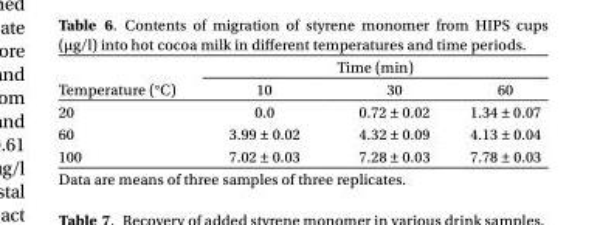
<table><thead><tr><td rowspan="2">Temperature (°C)</td><td colspan="3">Time (min)</td></tr><tr><td>10</td><td>30</td><td>60</td></tr></thead><tbody><tr><td>20</td><td>0.0</td><td>0.72 ± 0.02</td><td>1.34 ± 0.07</td></tr><tr><td>60</td><td>3.99 ± 0.02</td><td>4.32 ± 0.09</td><td>4.13 ± 0.04</td></tr><tr><td>100</td><td>7.02 ± 0.03</td><td>7.28 ± 0.03</td><td>7.78 ± 0.03</td></tr></tbody></table>